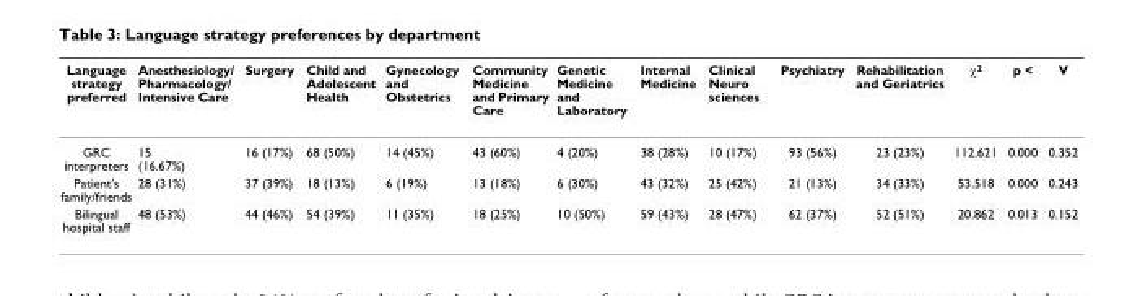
<table><thead><tr><td>Language strategy preferred</td><td>Anesthesiology/ Pharmacology/ Intensive Care</td><td>Surgery</td><td>Child and Adolescent Health</td><td>Gynecology and Obstetrics</td><td>Community Medicine and Primary Care</td><td>Genetic Medicine and Laboratory</td><td>Internal Medicine</td><td>Clinical Neuro sciences</td><td>Psychiatry</td><td>Rehabilitation and Geriatrics</td><td>χ<sup>2</sup></td><td>p &lt;</td><td>V</td></tr></thead><tbody><tr><td>GRC interpreters</td><td>15 (16.67%)</td><td>16 (17%)</td><td>68 (50%)</td><td>14 (45%)</td><td>43 (60%)</td><td>4 (20%)</td><td>38 (28%)</td><td>10 (17%)</td><td>93 (56%)</td><td>23 (23%)</td><td>112.621</td><td>0.000</td><td>0.352</td></tr><tr><td>Patient&#x27;s family/friends</td><td>28 (31%)</td><td>37 (39%)</td><td>18 (13%)</td><td>6 (19%)</td><td>13 (18%)</td><td>6 (30%)</td><td>43 (32%)</td><td>25 (42%)</td><td>21 (13%)</td><td>34 (33%)</td><td>53.518</td><td>0.000</td><td>0.243</td></tr><tr><td>Bilingual hospital staff</td><td>48 (53%)</td><td>44 (46%)</td><td>54 (39%)</td><td>11 (35%)</td><td>18 (25%)</td><td>10 (50%)</td><td>59 (43%)</td><td>28 (47%)</td><td>62 (37%)</td><td>52 (51%)</td><td>20.862</td><td>0.013</td><td>0.152</td></tr></tbody></table>